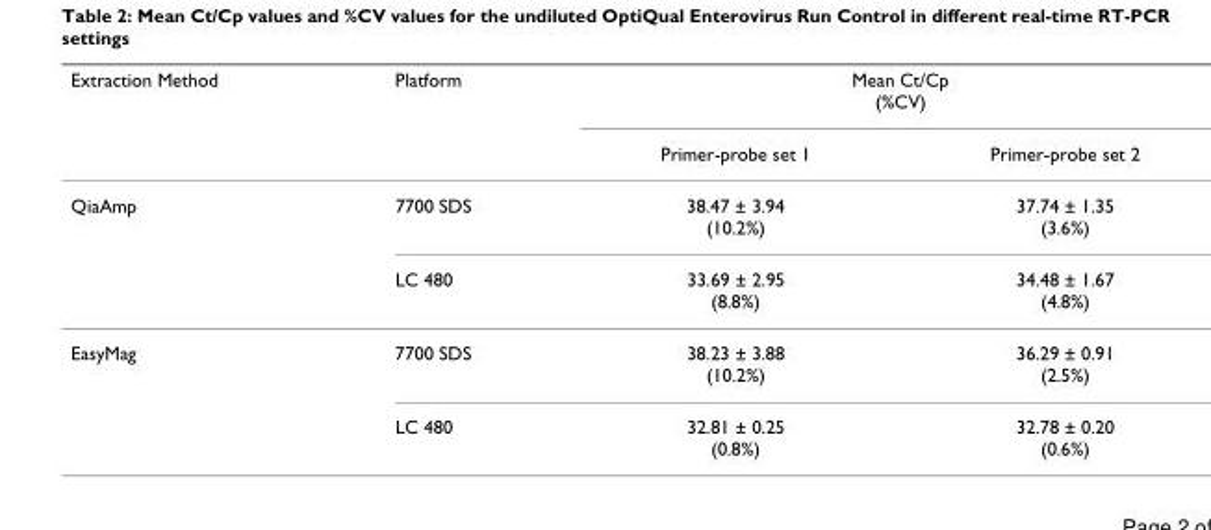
<table><thead><tr><td rowspan="2">Extraction Method</td><td rowspan="2">Platform</td><td colspan="2">Mean Ct/Cp (%CV)</td></tr><tr><td>Primer-probe set 1</td><td>Primer-probe set 2</td></tr></thead><tbody><tr><td rowspan="2">QiaAmp</td><td>7700 SDS</td><td>38.47 ± 3.94 (10.2%)</td><td>37.74 ± 1.35 (3.6%)</td></tr><tr><td>LC 480</td><td>33.69 ± 2.95 (8.8%)</td><td>34.48 ± 1.67 (4.8%)</td></tr><tr><td rowspan="2">EasyMag</td><td>7700 SDS</td><td>38.23 ± 3.88 (10.2%)</td><td>36.29 ± 0.91 (2.5%)</td></tr><tr><td>LC 480</td><td>32.81 ± 0.25 (0.8%)</td><td>32.78 ± 0.20 (0.6%)</td></tr></tbody></table>